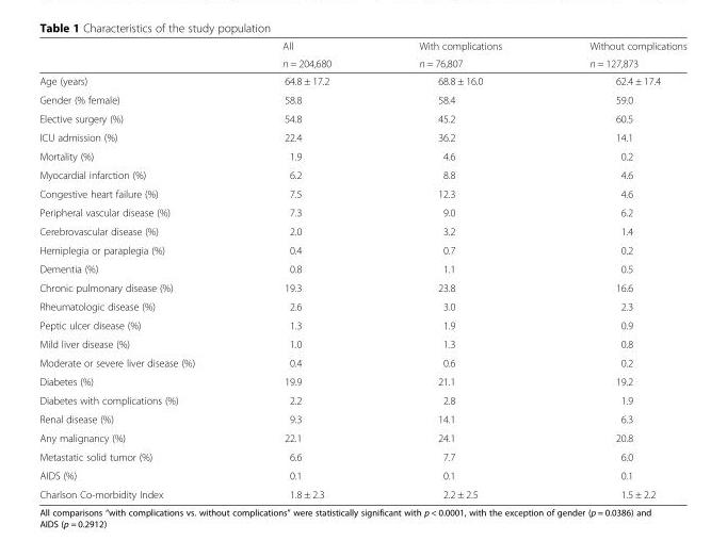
<table><thead><tr><td rowspan="2"></td><td rowspan="2">All n = 204,680</td><td rowspan="2">With complications n = 76,807</td><td rowspan="2">Without complications n = 127,873</td></tr><tr></tr></thead><tbody><tr><td>Age (years)</td><td>64.8 ± 17.2</td><td>68.8 ± 16.0</td><td>62.4 ± 17.4</td></tr><tr><td>Gender (% female)</td><td>58.8</td><td>58.4</td><td>59.0</td></tr><tr><td>Elective surgery (%)</td><td>54.8</td><td>45.2</td><td>60.5</td></tr><tr><td>ICU admission (%)</td><td>22.4</td><td>36.2</td><td>14.1</td></tr><tr><td>Mortality (%)</td><td>1.9</td><td>4.6</td><td>0.2</td></tr><tr><td>Myocardial infarction (%)</td><td>6.2</td><td>8.8</td><td>4.6</td></tr><tr><td>Congestive heart failure (%)</td><td>7.5</td><td>12.3</td><td>4.6</td></tr><tr><td>Peripheral vascular disease (%)</td><td>7.3</td><td>9.0</td><td>6.2</td></tr><tr><td>Cerebrovascular disease (%)</td><td>2.0</td><td>3.2</td><td>1.4</td></tr><tr><td>Hemiplegia or paraplegia (%)</td><td>0.4</td><td>0.7</td><td>0.2</td></tr><tr><td>Dementia (%)</td><td>0.8</td><td>1.1</td><td>0.5</td></tr><tr><td>Chronic pulmonary disease (%)</td><td>19.3</td><td>23.8</td><td>16.6</td></tr><tr><td>Rheumatologic disease (%)</td><td>2.6</td><td>3.0</td><td>2.3</td></tr><tr><td>Peptic ulcer disease (%)</td><td>1.3</td><td>1.9</td><td>0.9</td></tr><tr><td>Mild liver disease (%)</td><td>1.0</td><td>1.3</td><td>0.8</td></tr><tr><td>Moderate or severe liver disease (%)</td><td>0.4</td><td>0.6</td><td>0.2</td></tr><tr><td>Diabetes (%)</td><td>19.9</td><td>21.1</td><td>19.2</td></tr><tr><td>Diabetes with complications (%)</td><td>2.2</td><td>2.8</td><td>1.9</td></tr><tr><td>Renal disease (%)</td><td>9.3</td><td>14.1</td><td>6.3</td></tr><tr><td>Any malignancy (%)</td><td>22.1</td><td>24.1</td><td>20.8</td></tr><tr><td>Metastatic solid tumor (%)</td><td>6.6</td><td>7.7</td><td>6.0</td></tr><tr><td>AIDS (%)</td><td>0.1</td><td>0.1</td><td>0.1</td></tr><tr><td>Charlson Co-morbidity Index</td><td>1.8 ± 2.3</td><td>2.2 ± 2.5</td><td>1.5 ± 2.2</td></tr></tbody></table>